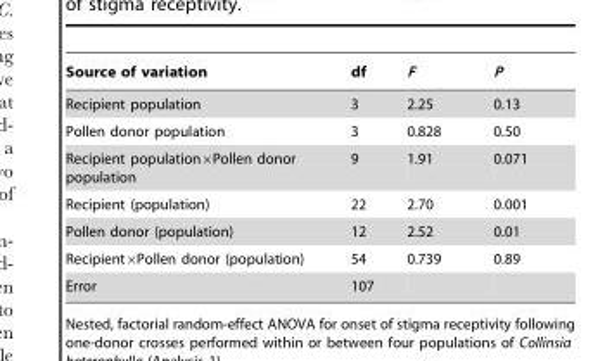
<table><thead><tr><td>Source of variation</td><td>df</td><td>F</td><td>P</td></tr></thead><tbody><tr><td>Recipient population</td><td>3</td><td>2.25</td><td>0.13</td></tr><tr><td>Pollen donor population</td><td>3</td><td>0.828</td><td>0.50</td></tr><tr><td>Recipient population×Pollen donor population</td><td>9</td><td>1.91</td><td>0.071</td></tr><tr><td>Recipient (population)</td><td>22</td><td>2.70</td><td>0.001</td></tr><tr><td>Pollen donor (population)</td><td>12</td><td>2.52</td><td>0.01</td></tr><tr><td>Recipient×Pollen donor (population)</td><td>54</td><td>0.739</td><td>0.89</td></tr><tr><td>Error</td><td>107</td><td></td><td></td></tr></tbody></table>